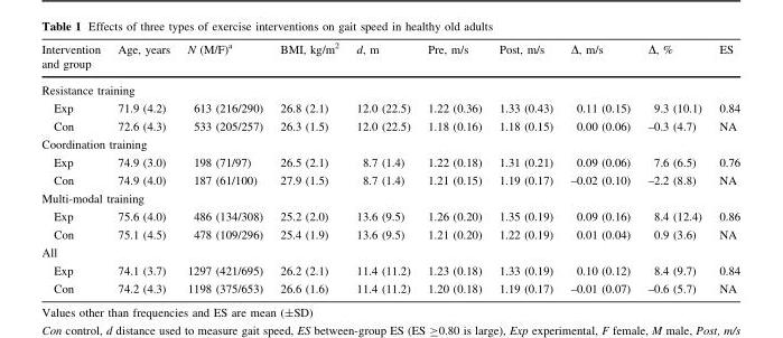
<table><thead><tr><td>Intervention and group</td><td>Age, years</td><td>N (M/F)<sup>a</sup></td><td>BMI, kg/m<sup>2</sup></td><td>d, m</td><td>Pre, m/s</td><td>Post, m/s</td><td>∆, m/s</td><td>∆, %</td><td>ES</td></tr></thead><tbody><tr><td colspan="10">Resistance training</td></tr><tr><td>Exp</td><td>71.9 (4.2)</td><td>613 (216/290)</td><td>26.8 (2.1)</td><td>12.0 (22.5)</td><td>1.22 (0.36)</td><td>1.33 (0.43)</td><td>0.11 (0.15)</td><td>9.3 (10.1)</td><td>0.84</td></tr><tr><td>Con</td><td>72.6 (4.3)</td><td>533 (205/257)</td><td>26.3 (1.5)</td><td>12.0 (22.5)</td><td>1.18 (0.16)</td><td>1.18 (0.15)</td><td>0.00 (0.06)</td><td>–0.3 (4.7)</td><td>NA</td></tr><tr><td colspan="10">Coordination training</td></tr><tr><td>Exp</td><td>74.9 (3.0)</td><td>198 (71/97)</td><td>26.5 (2.1)</td><td>8.7 (1.4)</td><td>1.22 (0.18)</td><td>1.31 (0.21)</td><td>0.09 (0.06)</td><td>7.6 (6.5)</td><td>0.76</td></tr><tr><td>Con</td><td>74.9 (4.0)</td><td>187 (61/100)</td><td>27.9 (1.5)</td><td>8.7 (1.4)</td><td>1.21 (0.15)</td><td>1.19 (0.17)</td><td>–0.02 (0.10)</td><td>–2.2 (8.8)</td><td>NA</td></tr><tr><td colspan="10">Multi-modal training</td></tr><tr><td>Exp</td><td>75.6 (4.0)</td><td>486 (134/308)</td><td>25.2 (2.0)</td><td>13.6 (9.5)</td><td>1.26 (0.20)</td><td>1.35 (0.19)</td><td>0.09 (0.16)</td><td>8.4 (12.4)</td><td>0.86</td></tr><tr><td>Con</td><td>75.1 (4.5)</td><td>478 (109/296)</td><td>25.4 (1.9)</td><td>13.6 (9.5)</td><td>1.21 (0.20)</td><td>1.22 (0.19)</td><td>0.01 (0.04)</td><td>0.9 (3.6)</td><td>NA</td></tr><tr><td colspan="10">All</td></tr><tr><td>Exp</td><td>74.1 (3.7)</td><td>1297 (421/695)</td><td>26.2 (2.1)</td><td>11.4 (11.2)</td><td>1.23 (0.18)</td><td>1.33 (0.19)</td><td>0.10 (0.12)</td><td>8.4 (9.7)</td><td>0.84</td></tr><tr><td>Con</td><td>74.2 (4.3)</td><td>1198 (375/653)</td><td>26.6 (1.6)</td><td>11.4 (11.2)</td><td>1.20 (0.18)</td><td>1.19 (0.17)</td><td>–0.01 (0.07)</td><td>–0.6 (5.7)</td><td>NA</td></tr></tbody></table>